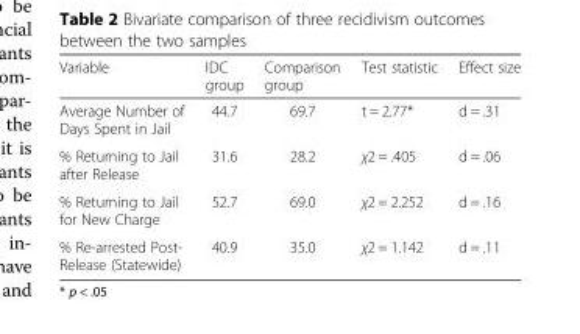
<table><thead><tr><td>Variable</td><td>IDC group</td><td>Comparison group</td><td>Test statistic</td><td>Effect size</td></tr></thead><tbody><tr><td>Average Number of Days Spent in Jail</td><td>44.7</td><td>69.7</td><td>t = 2.77*</td><td>d = .31</td></tr><tr><td>% Returning to Jail after Release</td><td>31.6</td><td>28.2</td><td>χ2 = .405</td><td>d = .06</td></tr><tr><td>% Returning to Jail for New Charge</td><td>52.7</td><td>69.0</td><td>χ2 = 2.252</td><td>d = .16</td></tr><tr><td>% Re-arrested Post- Release (Statewide)</td><td>40.9</td><td>35.0</td><td>χ2 = 1.142</td><td>d = .11</td></tr></tbody></table>